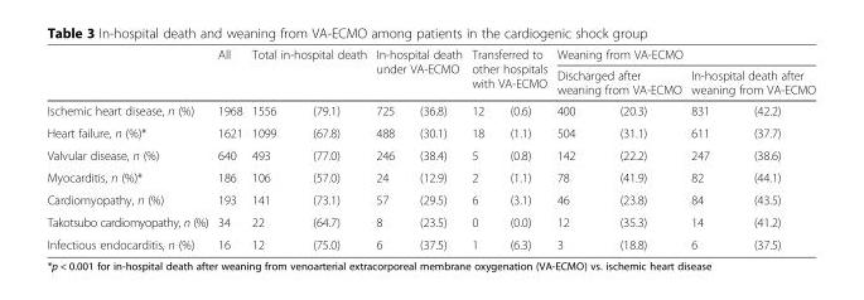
<table><thead><tr><td rowspan="3">Ischemic heart disease, n (%)</td><td rowspan="3">All 1968</td><td rowspan="2" colspan="2">Total in-hospital death</td><td rowspan="2" colspan="2">In-hospital death under VA-ECMO</td><td rowspan="2" colspan="2">Transferred to other hospitals with VA-ECMO</td><td colspan="4">Weaning from VA-ECMO</td></tr><tr><td colspan="2">Discharged after weaning from VA-ECMO</td><td colspan="2">In-hospital death after weaning from VA-ECMO</td></tr><tr><td>1556</td><td>(79.1)</td><td>725</td><td>(36.8)</td><td>12</td><td>(0.6)</td><td>400</td><td>(20.3)</td><td>831</td><td>(42.2)</td></tr></thead><tbody><tr><td>Heart failure, n (%)*</td><td>1621</td><td>1099</td><td>(67.8)</td><td>488</td><td>(30.1)</td><td>18</td><td>(1.1)</td><td>504</td><td>(31.1)</td><td>611</td><td>(37.7)</td></tr><tr><td>Valvular disease, n (%)</td><td>640</td><td>493</td><td>(77.0)</td><td>246</td><td>(38.4)</td><td>5</td><td>(0.8)</td><td>142</td><td>(22.2)</td><td>247</td><td>(38.6)</td></tr><tr><td>Myocarditis, n (%)*</td><td>186</td><td>106</td><td>(57.0)</td><td>24</td><td>(12.9)</td><td>2</td><td>(1.1)</td><td>78</td><td>(41.9)</td><td>82</td><td>(44.1)</td></tr><tr><td>Cardiomyopathy, n (%)</td><td>193</td><td>141</td><td>(73.1)</td><td>57</td><td>(29.5)</td><td>6</td><td>(3.1)</td><td>46</td><td>(23.8)</td><td>84</td><td>(43.5)</td></tr><tr><td>Takotsubo cardiomyopathy, n (%)</td><td>34</td><td>22</td><td>(64.7)</td><td>8</td><td>(23.5)</td><td>0</td><td>(0.0)</td><td>12</td><td>(35.3)</td><td>14</td><td>(41.2)</td></tr><tr><td>Infectious endocarditis, n (%)</td><td>16</td><td>12</td><td>(75.0)</td><td>6</td><td>(37.5)</td><td>1</td><td>(6.3)</td><td>3</td><td>(18.8)</td><td>6</td><td>(37.5)</td></tr></tbody></table>